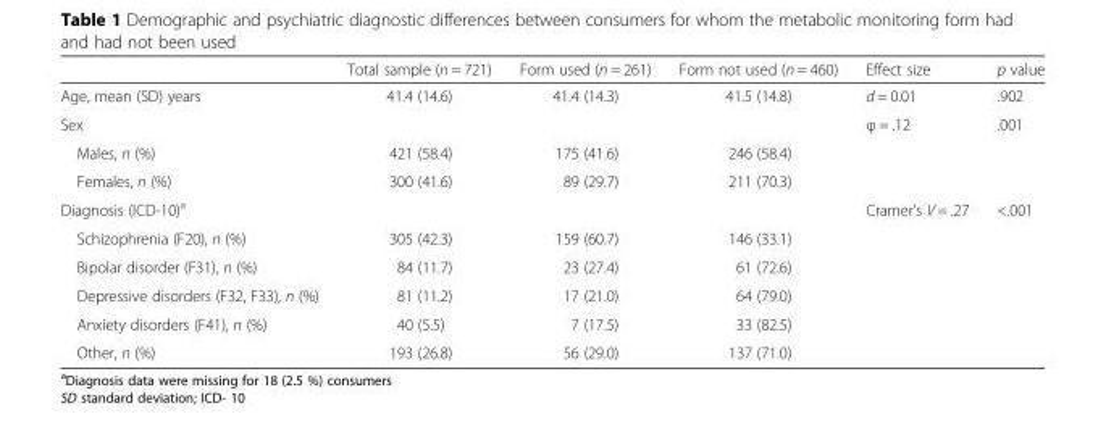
<table><thead><tr><td></td><td>Total sample (n = 721)</td><td>Form used (n = 261)</td><td>Form not used (n = 460)</td><td>Effect size</td><td>p value</td></tr></thead><tbody><tr><td>Age, mean (SD) years</td><td>41.4 (14.6)</td><td>41.4 (14.3)</td><td>41.5 (14.8)</td><td>d = 0.01</td><td>.902</td></tr><tr><td>Sex</td><td></td><td></td><td></td><td>φ = .12</td><td>.001</td></tr><tr><td>Males, n (%)</td><td>421 (58.4)</td><td>175 (41.6)</td><td>246 (58.4)</td><td></td><td></td></tr><tr><td>Females, n (%)</td><td>300 (41.6)</td><td>89 (29.7)</td><td>211 (70.3)</td><td></td><td></td></tr><tr><td>Diagnosis (ICD-10)<sup>a</sup></td><td></td><td></td><td></td><td>Cramer’s V = .27</td><td>&lt;.001</td></tr><tr><td>Schizophrenia (F20), n (%)</td><td>305 (42.3)</td><td>159 (60.7)</td><td>146 (33.1)</td><td></td><td></td></tr><tr><td>Bipolar disorder (F31), n (%)</td><td>84 (11.7)</td><td>23 (27.4)</td><td>61 (72.6)</td><td></td><td></td></tr><tr><td>Depressive disorders (F32, F33), n (%)</td><td>81 (11.2)</td><td>17 (21.0)</td><td>64 (79.0)</td><td></td><td></td></tr><tr><td>Anxiety disorders (F41), n (%)</td><td>40 (5.5)</td><td>7 (17.5)</td><td>33 (82.5)</td><td></td><td></td></tr><tr><td>Other, n (%)</td><td>193 (26.8)</td><td>56 (29.0)</td><td>137 (71.0)</td><td></td><td></td></tr></tbody></table>